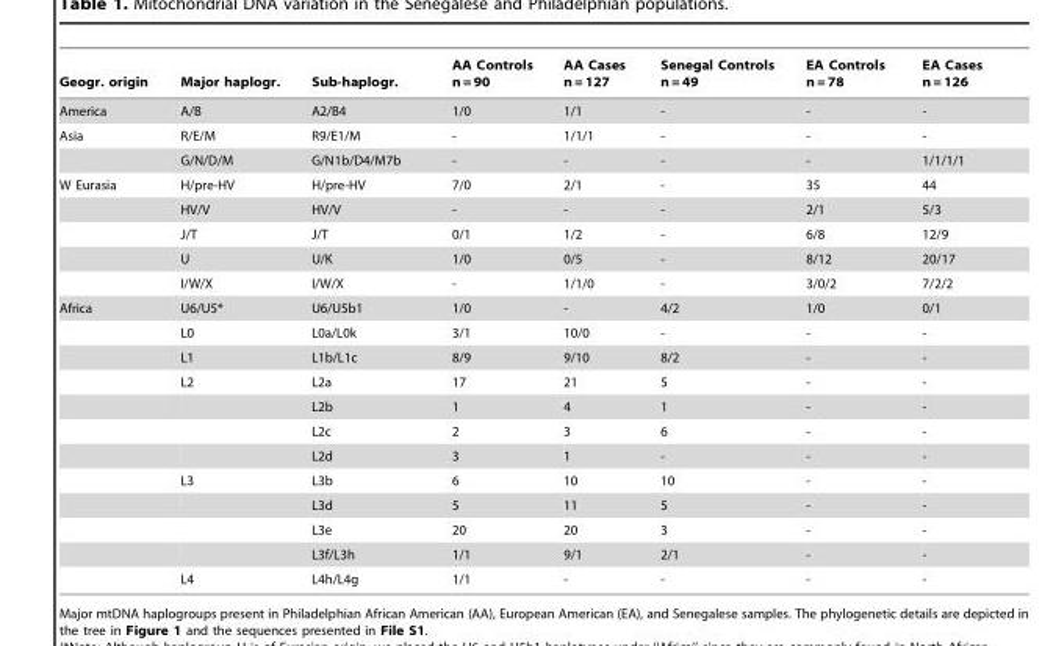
<table><thead><tr><td>Geogr. origin</td><td>Major haplogr.</td><td>Sub-haplogr.</td><td>AA Controls n = 90</td><td>AA Cases n = 127</td><td>Senegal Controls n = 49</td><td>EA Controls n = 78</td><td>EA Cases n = 126</td></tr></thead><tbody><tr><td>America</td><td>A/B</td><td>A2/B4</td><td>1/0</td><td>1/1</td><td>-</td><td>-</td><td>-</td></tr><tr><td rowspan="2">Asia</td><td>R/E/M</td><td>R9/E1/M</td><td>-</td><td>1/1/1</td><td>-</td><td>-</td><td>-</td></tr><tr><td>G/N/D/M</td><td>G/N1b/D4/M7b</td><td>-</td><td>-</td><td>-</td><td>-</td><td>1/1/1/1</td></tr><tr><td rowspan="5">W Eurasia</td><td>H/pre-HV</td><td>H/pre-HV</td><td>7/0</td><td>2/1</td><td>-</td><td>35</td><td>44</td></tr><tr><td>HV/V</td><td>HV/V</td><td>-</td><td>-</td><td>-</td><td>2/1</td><td>5/3</td></tr><tr><td>J/T</td><td>J/T</td><td>0/1</td><td>1/2</td><td>-</td><td>6/8</td><td>12/9</td></tr><tr><td>U</td><td>U/K</td><td>1/0</td><td>0/5</td><td>-</td><td>8/12</td><td>20/17</td></tr><tr><td>I/W/X</td><td>I/W/X</td><td>-</td><td>1/1/0</td><td>-</td><td>3/0/2</td><td>7/2/2</td></tr><tr><td rowspan="12">Africa</td><td>U6/U5*</td><td>U6/U5b1</td><td>1/0</td><td>-</td><td>4/2</td><td>1/0</td><td>0/1</td></tr><tr><td>L0</td><td>L0a/L0k</td><td>3/1</td><td>10/0</td><td>-</td><td>-</td><td>-</td></tr><tr><td>L1</td><td>L1b/L1c</td><td>8/9</td><td>9/10</td><td>8/2</td><td>-</td><td>-</td></tr><tr><td>L2</td><td>L2a</td><td>17</td><td>21</td><td>5</td><td>-</td><td>-</td></tr><tr><td></td><td>L2b</td><td>1</td><td>4</td><td>1</td><td>-</td><td>-</td></tr><tr><td></td><td>L2c</td><td>2</td><td>3</td><td>6</td><td>-</td><td>-</td></tr><tr><td></td><td>L2d</td><td>3</td><td>1</td><td>-</td><td>-</td><td>-</td></tr><tr><td>L3</td><td>L3b</td><td>6</td><td>10</td><td>10</td><td>-</td><td>-</td></tr><tr><td></td><td>L3d</td><td>5</td><td>11</td><td>5</td><td>-</td><td>-</td></tr><tr><td></td><td>L3e</td><td>20</td><td>20</td><td>3</td><td>-</td><td>-</td></tr><tr><td></td><td>L3f/L3h</td><td>1/1</td><td>9/1</td><td>2/1</td><td>-</td><td>-</td></tr><tr><td>L4</td><td>L4h/L4g</td><td>1/1</td><td>-</td><td>-</td><td>-</td><td>-</td></tr></tbody></table>